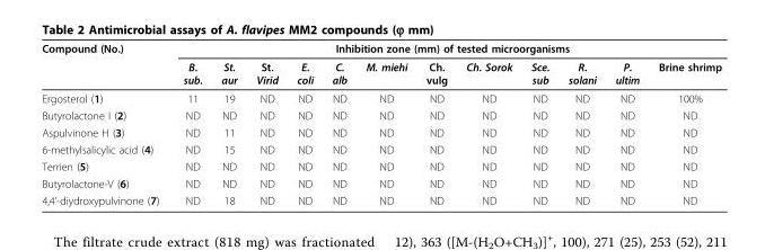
<table><thead><tr><td rowspan="2">Compound (No.)</td><td colspan="12">Inhibition zone (mm) of tested microorganisms</td></tr><tr><td>B. sub.</td><td>St. aur</td><td>St. Virid</td><td>E. coli</td><td>C. alb</td><td>M. miehi</td><td>Ch. vulg</td><td>Ch. Sorok</td><td>Sce. sub</td><td>R. solani</td><td>P. ultim</td><td>Brine shrimp</td></tr></thead><tbody><tr><td>Ergosterol (1)</td><td>11</td><td>19</td><td>ND</td><td>ND</td><td>ND</td><td>ND</td><td>ND</td><td>ND</td><td>ND</td><td>ND</td><td>ND</td><td>100%</td></tr><tr><td>Butyrolactone I (2)</td><td>ND</td><td>ND</td><td>ND</td><td>ND</td><td>ND</td><td>ND</td><td>ND</td><td>ND</td><td>ND</td><td>ND</td><td>ND</td><td>ND</td></tr><tr><td>Aspulvinone H (3)</td><td>ND</td><td>11</td><td>ND</td><td>ND</td><td>ND</td><td>ND</td><td>ND</td><td>ND</td><td>ND</td><td>ND</td><td>ND</td><td>ND</td></tr><tr><td>6-methylsalicylic acid (4)</td><td>ND</td><td>15</td><td>ND</td><td>ND</td><td>ND</td><td>ND</td><td>ND</td><td>ND</td><td>ND</td><td>ND</td><td>ND</td><td>ND</td></tr><tr><td>Terrien (5)</td><td>ND</td><td>ND</td><td>ND</td><td>ND</td><td>ND</td><td>ND</td><td>ND</td><td>ND</td><td>ND</td><td>ND</td><td>ND</td><td>ND</td></tr><tr><td>Butyrolactone-V (6)</td><td>ND</td><td>ND</td><td>ND</td><td>ND</td><td>ND</td><td>ND</td><td>ND</td><td>ND</td><td>ND</td><td>ND</td><td>ND</td><td>ND</td></tr><tr><td>4,4’-diydroxypulvinone (7)</td><td>ND</td><td>18</td><td>ND</td><td>ND</td><td>ND</td><td>ND</td><td>ND</td><td>ND</td><td>ND</td><td>ND</td><td>ND</td><td>ND</td></tr></tbody></table>